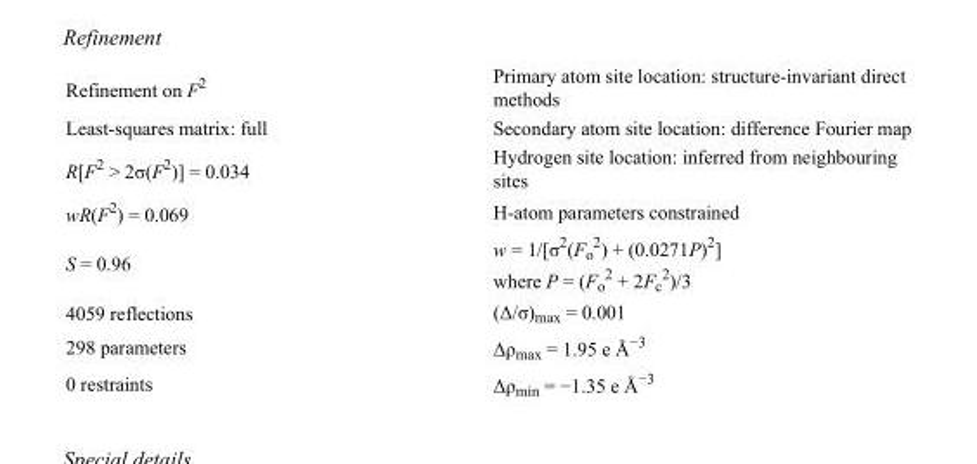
<table><tbody><tr><td>Refinement on F<sup>2</sup></td><td>Primary atom site location: structure-invariant direct methods</td></tr><tr><td>Least-squares matrix: full</td><td>Secondary atom site location: difference Fourier map</td></tr><tr><td>R[F<sup>2</sup> &gt; 2σ(F<sup>2</sup>)] = 0.034</td><td>Hydrogen site location: inferred from neighbouring sites</td></tr><tr><td>wR(F<sup>2</sup>) = 0.069</td><td>H-atom parameters constrained</td></tr><tr><td>S = 0.96</td><td>w = 1/[σ<sup>2</sup>(F<sub>o</sub> <sup>2</sup>) + (0.0271P)<sup>2</sup>] where P = (F<sub>o</sub> <sup>2</sup> + 2F<sub>c</sub> <sup>2</sup>)/3</td></tr><tr><td>4059 reflections</td><td>(Δ/σ)<sub>max</sub> = 0.001</td></tr><tr><td>298 parameters</td><td>Δρ<sub>max</sub> = 1.95 e Å<sup>−3</sup></td></tr><tr><td>0 restraints</td><td>Δρ<sub>min</sub> = −1.35 e Å<sup>−3</sup></td></tr></tbody></table>